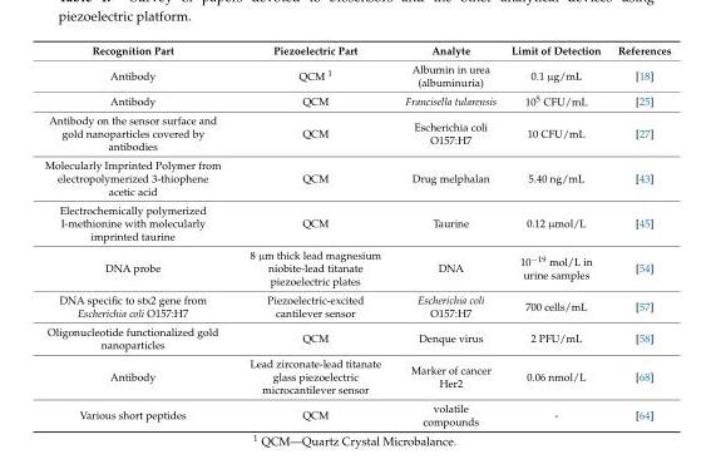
<table><thead><tr><td>Recognition Part</td><td>Piezoelectric Part</td><td>Analyte</td><td>Limit of Detection</td><td>References</td></tr></thead><tbody><tr><td>Antibody</td><td>QCM <sup>1</sup></td><td>Albumin in urea (albuminuria)</td><td>0.1 µg/mL</td><td>[18]</td></tr><tr><td>Antibody</td><td>QCM</td><td>Francisella tularensis</td><td>10<sup>5</sup> CFU/mL</td><td>[25]</td></tr><tr><td>Antibody on the sensor surface and gold nanoparticles covered by antibodies</td><td>QCM</td><td>Escherichia coli O157:H7</td><td>10 CFU/mL</td><td>[27]</td></tr><tr><td>Molecularly Imprinted Polymer from electropolymerized 3-thiophene acetic acid</td><td>QCM</td><td>Drug melphalan</td><td>5.40 ng/mL</td><td>[43]</td></tr><tr><td>Electrochemically polymerized I-methionine with molecularly imprinted taurine</td><td>QCM</td><td>Taurine</td><td>0.12 µmol/L</td><td>[45]</td></tr><tr><td>DNA probe</td><td>8 µm thick lead magnesium niobite-lead titanate piezoelectric plates</td><td>DNA</td><td>10<sup>−19</sup> mol/L in urine samples</td><td>[54]</td></tr><tr><td>DNA specific to stx2 gene from Escherichia coli O157:H7</td><td>Piezoelectric-excited cantilever sensor</td><td>Escherichia coli O157:H7</td><td>700 cells/mL</td><td>[57]</td></tr><tr><td>Oligonucleotide functionalized gold nanoparticles</td><td>QCM</td><td>Denque virus</td><td>2 PFU/mL</td><td>[58]</td></tr><tr><td>Antibody</td><td>Lead zirconate-lead titanate glass piezoelectric microcantilever sensor</td><td>Marker of cancer Her2</td><td>0.06 nmol/L</td><td>[68]</td></tr><tr><td>Various short peptides</td><td>QCM</td><td>volatile compounds</td><td>-</td><td>[64]</td></tr></tbody></table>